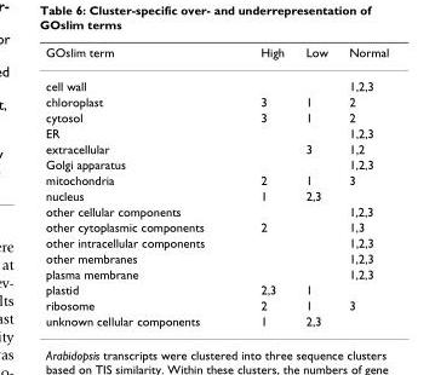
<table><thead><tr><td>GOslim term</td><td>High</td><td>Low</td><td>Normal</td></tr></thead><tbody><tr><td>cell wall</td><td></td><td></td><td>1,2,3</td></tr><tr><td>chloroplast</td><td>3</td><td>1</td><td>2</td></tr><tr><td>cytosol</td><td>3</td><td>1</td><td>2</td></tr><tr><td>ER</td><td></td><td></td><td>1,2,3</td></tr><tr><td>extracellular</td><td></td><td>3</td><td>1,2</td></tr><tr><td>Golgi apparatus</td><td></td><td></td><td>1,2,3</td></tr><tr><td>mitochondria</td><td>2</td><td>1</td><td>3</td></tr><tr><td>nucleus</td><td>1</td><td>2,3</td><td></td></tr><tr><td>other cellular components</td><td></td><td></td><td>1,2,3</td></tr><tr><td>other cytoplasmic components</td><td>2</td><td></td><td>1,3</td></tr><tr><td>other intracellular components</td><td></td><td></td><td>1,2,3</td></tr><tr><td>other membranes</td><td></td><td></td><td>1,2,3</td></tr><tr><td>plasma membrane</td><td></td><td></td><td>1,2,3</td></tr><tr><td>plastid</td><td>2,3</td><td>1</td><td></td></tr><tr><td>ribosome</td><td>2</td><td>1</td><td>3</td></tr><tr><td>unknown cellular components</td><td>1</td><td>2,3</td><td></td></tr></tbody></table>